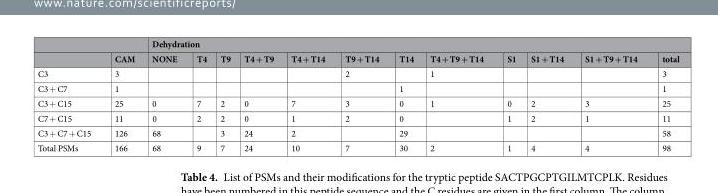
<table><thead><tr><td rowspan="2"></td><td rowspan="2">CAM</td><td colspan="12">Dehydration</td></tr><tr><td>NONE</td><td>T4</td><td>T9</td><td>T4 + T9</td><td>T4 + T14</td><td>T9 + T14</td><td>T14</td><td>T4 + T9 + T14</td><td>S1</td><td>S1 + T14</td><td>S1 + T9 + T14</td><td>total</td></tr></thead><tbody><tr><td>C3</td><td>3</td><td></td><td></td><td></td><td></td><td></td><td>2</td><td></td><td>1</td><td></td><td></td><td></td><td>3</td></tr><tr><td>C3 + C7</td><td>1</td><td></td><td></td><td></td><td></td><td></td><td></td><td>1</td><td></td><td></td><td></td><td></td><td>1</td></tr><tr><td>C3 + C15</td><td>25</td><td>0</td><td>7</td><td>2</td><td>0</td><td>7</td><td>3</td><td>0</td><td>1</td><td>0</td><td>2</td><td>3</td><td>25</td></tr><tr><td>C7 + C15</td><td>11</td><td>0</td><td>2</td><td>2</td><td>0</td><td>1</td><td>2</td><td>0</td><td></td><td>1</td><td>2</td><td>1</td><td>11</td></tr><tr><td>C3 + C7 + C15</td><td>126</td><td>68</td><td></td><td>3</td><td>24</td><td>2</td><td></td><td>29</td><td></td><td></td><td></td><td></td><td>58</td></tr><tr><td>Total PSMs</td><td>166</td><td>68</td><td>9</td><td>7</td><td>24</td><td>10</td><td>7</td><td>30</td><td>2</td><td>1</td><td>4</td><td>4</td><td>98</td></tr></tbody></table>